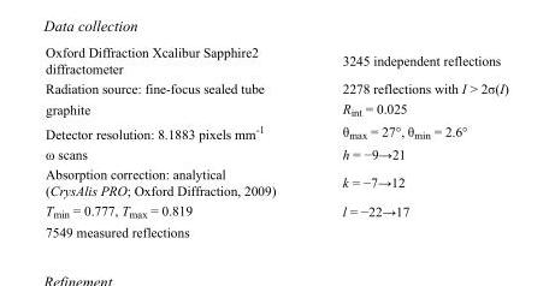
<table><tbody><tr><td>Oxford Diffraction Xcalibur Sapphire2 diffractometer</td><td>3245 independent reflections</td></tr><tr><td>Radiation source: fine-focus sealed tube</td><td>2278 reflections with I &gt; 2σ(I)</td></tr><tr><td>graphite</td><td>R<sub>int</sub> = 0.025</td></tr><tr><td>Detector resolution: 8.1883 pixels mm<sup>-1</sup></td><td>θ<sub>max</sub> = 27°, θ<sub>min</sub> = 2.6°</td></tr><tr><td>ω scans</td><td>h = −9→21</td></tr><tr><td>Absorption correction: analytical (CrysAlis PRO; Oxford Diffraction, 2009)</td><td>k = −7→12</td></tr><tr><td>T<sub>min</sub> = 0.777, T<sub>max</sub> = 0.819</td><td>l = −22→17</td></tr><tr><td>7549 measured reflections</td><td></td></tr></tbody></table>